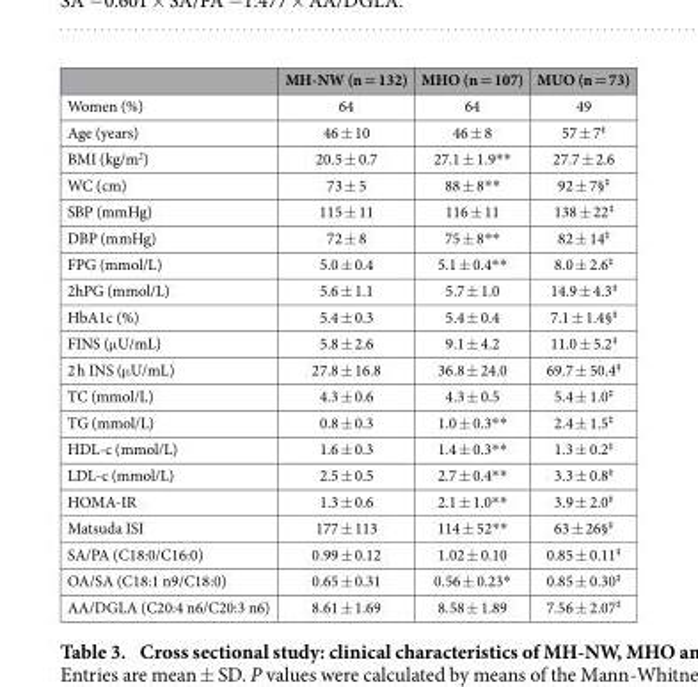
<table><thead><tr><td></td><td>MH-NW (n = 132)</td><td>MHO (n = 107)</td><td>MUO (n = 73)</td></tr></thead><tbody><tr><td>Women (%)</td><td>64</td><td>64</td><td>49</td></tr><tr><td>Age (years)</td><td>46 ± 10</td><td>46 ± 8</td><td>57 ± 7<sup>‡</sup></td></tr><tr><td>BMI (kg/m<sup>2</sup>)</td><td>20.5 ± 0.7</td><td>27.1 ± 1.9* *</td><td>27.7 ± 2.6</td></tr><tr><td>WC (cm)</td><td>73 ± 5</td><td>88 ± 8* *</td><td>92 ± 7§<sup>‡</sup></td></tr><tr><td>SBP (mmHg)</td><td>115 ± 11</td><td>116 ± 11</td><td>138 ± 22<sup>‡</sup></td></tr><tr><td>DBP (mmHg)</td><td>72 ± 8</td><td>75 ± 8* *</td><td>82 ± 14<sup>‡</sup></td></tr><tr><td>FPG (mmol/L)</td><td>5.0 ± 0.4</td><td>5.1 ± 0.4* *</td><td>8.0 ± 2.6<sup>‡</sup></td></tr><tr><td>2hPG (mmol/L)</td><td>5.6 ± 1.1</td><td>5.7 ± 1.0</td><td>14.9 ± 4.3<sup>‡</sup></td></tr><tr><td>HbA1c (%)</td><td>5.4 ± 0.3</td><td>5.4 ± 0.4</td><td>7.1 ± 1.4§<sup>‡</sup></td></tr><tr><td>FINS (μ U/mL)</td><td>5.8 ± 2.6</td><td>9.1 ± 4.2</td><td>11.0 ± 5.2<sup>‡</sup></td></tr><tr><td>2 h INS (μ U/mL)</td><td>27.8 ± 16.8</td><td>36.8 ± 24.0</td><td>69.7 ± 50.4<sup>‡</sup></td></tr><tr><td>TC (mmol/L)</td><td>4.3 ± 0.6</td><td>4.3 ± 0.5</td><td>5.4 ± 1.0<sup>‡</sup></td></tr><tr><td>TG (mmol/L)</td><td>0.8 ± 0.3</td><td>1.0 ± 0.3* *</td><td>2.4 ± 1.5<sup>‡</sup></td></tr><tr><td>HDL-c (mmol/L)</td><td>1.6 ± 0.3</td><td>1.4 ± 0.3* *</td><td>1.3 ± 0.2<sup>‡</sup></td></tr><tr><td>LDL-c (mmol/L)</td><td>2.5 ± 0.5</td><td>2.7 ± 0.4* *</td><td>3.3 ± 0.8<sup>‡</sup></td></tr><tr><td>HOMA-IR</td><td>1.3 ± 0.6</td><td>2.1 ± 1.0* *</td><td>3.9 ± 2.0<sup>‡</sup></td></tr><tr><td>Matsuda ISI</td><td>177 ± 113</td><td>114 ± 52* *</td><td>63 ± 26§<sup>‡</sup></td></tr><tr><td>SA/PA (C18:0/C16:0)</td><td>0.99 ± 0.12</td><td>1.02 ± 0.10</td><td>0.85 ± 0.11<sup>‡</sup></td></tr><tr><td>OA/SA (C18:1 n9/C18:0)</td><td>0.65 ± 0.31</td><td>0.56 ± 0.23*</td><td>0.85 ± 0.30<sup>‡</sup></td></tr><tr><td>AA/DGLA (C20:4 n6/C20:3 n6)</td><td>8.61 ± 1.69</td><td>8.58 ± 1.89</td><td>7.56 ± 2.07<sup>‡</sup></td></tr></tbody></table>